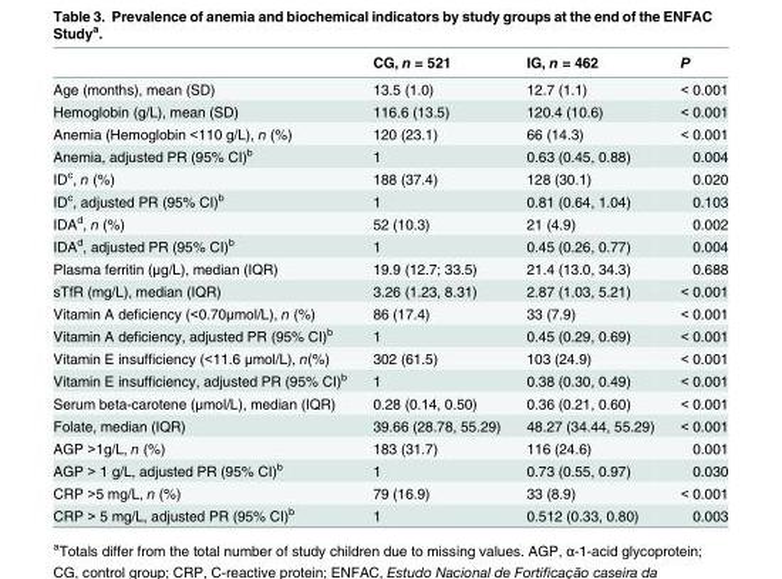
<table><thead><tr><td></td><td>CG, n = 521</td><td>IG, n = 462</td><td>P</td></tr></thead><tbody><tr><td>Age (months), mean (SD)</td><td>13.5 (1.0)</td><td>12.7 (1.1)</td><td>&lt; 0.001</td></tr><tr><td>Hemoglobin (g/L), mean (SD)</td><td>116.6 (13.5)</td><td>120.4 (10.6)</td><td>&lt; 0.001</td></tr><tr><td>Anemia (Hemoglobin &lt;110 g/L), n (%)</td><td>120 (23.1)</td><td>66 (14.3)</td><td>&lt; 0.001</td></tr><tr><td>Anemia, adjusted PR (95% CI)<sup>b</sup></td><td>1</td><td>0.63 (0.45, 0.88)</td><td>0.004</td></tr><tr><td>ID<sup>c</sup>, n (%)</td><td>188 (37.4)</td><td>128 (30.1)</td><td>0.020</td></tr><tr><td>ID<sup>c</sup>, adjusted PR (95% CI)<sup>b</sup></td><td>1</td><td>0.81 (0.64, 1.04)</td><td>0.103</td></tr><tr><td>IDA<sup>d</sup>, n (%)</td><td>52 (10.3)</td><td>21 (4.9)</td><td>0.002</td></tr><tr><td>IDA<sup>d</sup>, adjusted PR (95% CI)<sup>b</sup></td><td>1</td><td>0.45 (0.26, 0.77)</td><td>0.004</td></tr><tr><td>Plasma ferritin (μg/L), median (IQR)</td><td>19.9 (12.7; 33.5)</td><td>21.4 (13.0, 34.3)</td><td>0.688</td></tr><tr><td>sTfR (mg/L), median (IQR)</td><td>3.26 (1.23, 8.31)</td><td>2.87 (1.03, 5.21)</td><td>&lt; 0.001</td></tr><tr><td>Vitamin A deficiency (&lt;0.70μmol/L), n (%)</td><td>86 (17.4)</td><td>33 (7.9)</td><td>&lt; 0.001</td></tr><tr><td>Vitamin A deficiency, adjusted PR (95% CI)<sup>b</sup></td><td>1</td><td>0.45 (0.29, 0.69)</td><td>&lt; 0.001</td></tr><tr><td>Vitamin E insufficiency (&lt;11.6 μmol/L), n(%)</td><td>302 (61.5)</td><td>103 (24.9)</td><td>&lt; 0.001</td></tr><tr><td>Vitamin E insufficiency, adjusted PR (95% CI)<sup>b</sup></td><td>1</td><td>0.38 (0.30, 0.49)</td><td>&lt; 0.001</td></tr><tr><td>Serum beta-carotene (μmol/L), median (IQR)</td><td>0.28 (0.14, 0.50)</td><td>0.36 (0.21, 0.60)</td><td>&lt; 0.001</td></tr><tr><td>Folate, median (IQR)</td><td>39.66 (28.78, 55.29)</td><td>48.27 (34.44, 55.29)</td><td>&lt; 0.001</td></tr><tr><td>AGP &gt;1g/L, n (%)</td><td>183 (31.7)</td><td>116 (24.6)</td><td>0.001</td></tr><tr><td>AGP &gt; 1 g/L, adjusted PR (95% CI)<sup>b</sup></td><td>1</td><td>0.73 (0.55, 0.97)</td><td>0.030</td></tr><tr><td>CRP &gt;5 mg/L, n (%)</td><td>79 (16.9)</td><td>33 (8.9)</td><td>&lt; 0.001</td></tr><tr><td>CRP &gt; 5 mg/L, adjusted PR (95% CI)<sup>b</sup></td><td>1</td><td>0.512 (0.33, 0.80)</td><td>0.003</td></tr></tbody></table>